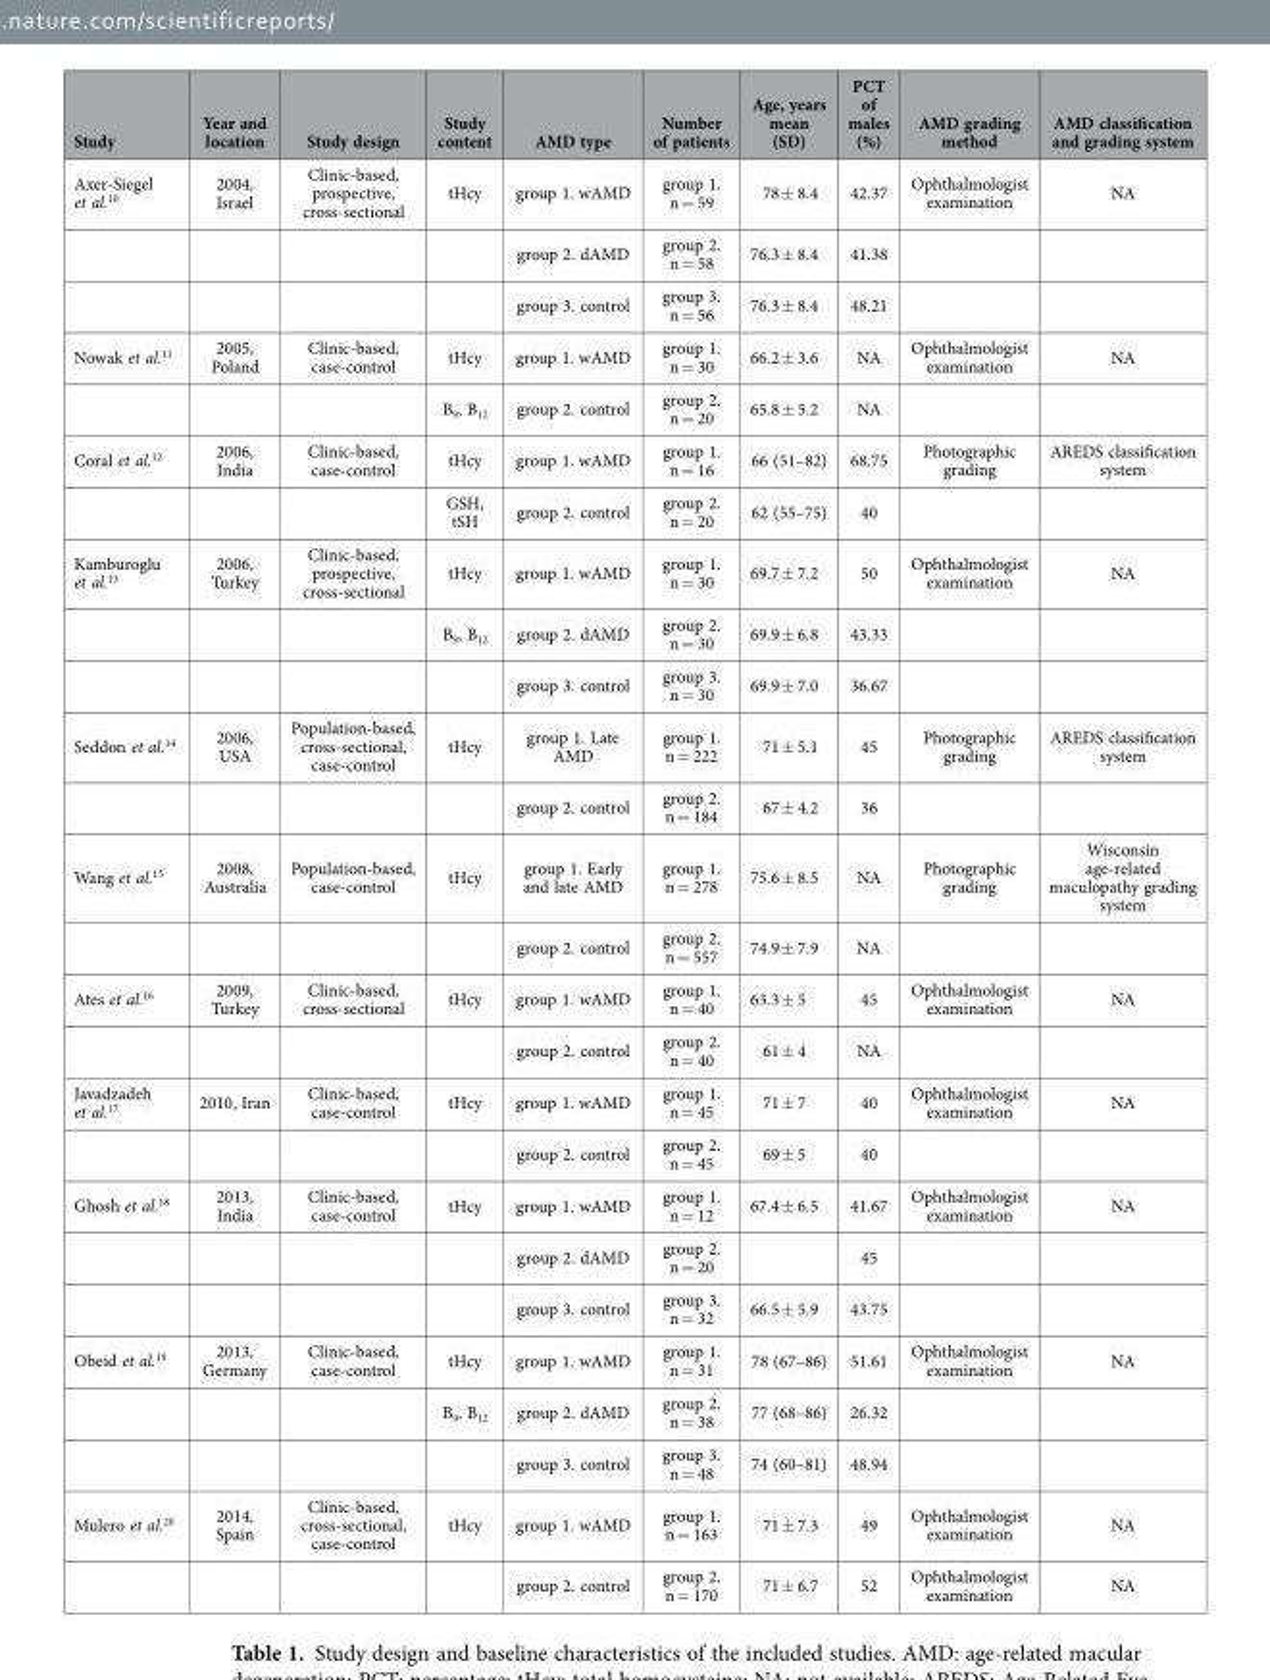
<table><thead><tr><td>Study</td><td>Year and location</td><td>Study design</td><td>Study content</td><td>AMD type</td><td>Number of patients</td><td>Age, years mean (SD)</td><td>PCT of males (%)</td><td>AMD grading method</td><td>AMD classification and grading system</td></tr></thead><tbody><tr><td rowspan="3">Axer-Siegel et al.<sup>10</sup></td><td>2004, Israel</td><td>Clinic-based, prospective, cross-sectional</td><td>tHcy</td><td>group 1. wAMD</td><td>group 1. n = 59</td><td>78 ± 8.4</td><td>42.37</td><td>Ophthalmologist examination</td><td>NA</td></tr><tr><td></td><td></td><td></td><td>group 2. dAMD</td><td>group 2. n = 58</td><td>76.3 ± 8.4</td><td>41.38</td><td></td><td></td></tr><tr><td></td><td></td><td></td><td>group 3. control</td><td>group 3. n = 56</td><td>76.3 ± 8.4</td><td>48.21</td><td></td><td></td></tr><tr><td rowspan="2">Nowak et al.<sup>11</sup></td><td>2005, Poland</td><td>Clinic-based, case-control</td><td>tHcy</td><td>group 1. wAMD</td><td>group 1. n = 30</td><td>66.2 ± 3.6</td><td>NA</td><td>Ophthalmologist examination</td><td>NA</td></tr><tr><td></td><td></td><td>B<sub>9</sub>, B<sub>12</sub></td><td>group 2. control</td><td>group 2. n = 20</td><td>65.8 ± 5.2</td><td>NA</td><td></td><td></td></tr><tr><td rowspan="2">Coral et al.<sup>12</sup></td><td>2006, India</td><td>Clinic-based, case-control</td><td>tHcy</td><td>group 1. wAMD</td><td>group 1. n = 16</td><td>66 (51–82)</td><td>68.75</td><td>Photographic grading</td><td>AREDS classification system</td></tr><tr><td></td><td></td><td>GSH, tSH</td><td>group 2. control</td><td>group 2. n = 20</td><td>62 (55–75)</td><td>40</td><td></td><td></td></tr><tr><td rowspan="3">Kamburoglu et al.<sup>13</sup></td><td>2006, Turkey</td><td>Clinic-based, prospective, cross-sectional</td><td>tHcy</td><td>group 1. wAMD</td><td>group 1. n = 30</td><td>69.7 ± 7.2</td><td>50</td><td>Ophthalmologist examination</td><td>NA</td></tr><tr><td></td><td></td><td>B<sub>9</sub>, B<sub>12</sub></td><td>group 2. dAMD</td><td>group 2. n = 30</td><td>69.9 ± 6.8</td><td>43.33</td><td></td><td></td></tr><tr><td></td><td></td><td></td><td>group 3. control</td><td>group 3. n = 30</td><td>69.9 ± 7.0</td><td>36.67</td><td></td><td></td></tr><tr><td rowspan="2">Seddon et al.<sup>14</sup></td><td>2006, USA</td><td>Population-based, cross-sectional, case-control</td><td>tHcy</td><td>group 1. Late AMD</td><td>group 1. n = 222</td><td>71 ± 5.1</td><td>45</td><td>Photographic grading</td><td>AREDS classification system</td></tr><tr><td></td><td></td><td></td><td>group 2. control</td><td>group 2. n = 184</td><td>67 ± 4.2</td><td>36</td><td></td><td></td></tr><tr><td rowspan="2">Wang et al.<sup>15</sup></td><td>2008, Australia</td><td>Population-based, case-control</td><td>tHcy</td><td>group 1. Early and late AMD</td><td>group 1. n = 278</td><td>75.6 ± 8.5</td><td>NA</td><td>Photographic grading</td><td>Wisconsin age-related maculopathy grading system</td></tr><tr><td></td><td></td><td></td><td>group 2. control</td><td>group 2. n = 557</td><td>74.9 ± 7.9</td><td>NA</td><td></td><td></td></tr><tr><td rowspan="2">Ates et al.<sup>16</sup></td><td>2009, Turkey</td><td>Clinic-based, cross-sectional</td><td>tHcy</td><td>group 1. wAMD</td><td>group 1. n = 40</td><td>63.3 ± 5</td><td>45</td><td>Ophthalmologist examination</td><td>NA</td></tr><tr><td></td><td></td><td></td><td>group 2. control</td><td>group 2. n = 40</td><td>61 ± 4</td><td>NA</td><td></td><td></td></tr><tr><td rowspan="2">Javadzadeh et al.<sup>17</sup></td><td>2010, Iran</td><td>Clinic-based, case-control</td><td>tHcy</td><td>group 1. wAMD</td><td>group 1. n = 45</td><td>71 ± 7</td><td>40</td><td>Ophthalmologist examination</td><td>NA</td></tr><tr><td></td><td></td><td></td><td>group 2. control</td><td>group 2. n = 45</td><td>69 ± 5</td><td>40</td><td></td><td></td></tr><tr><td rowspan="3">Ghosh et al.<sup>18</sup></td><td>2013, India</td><td>Clinic-based, case-control</td><td>tHcy</td><td>group 1. wAMD</td><td>group 1. n = 12</td><td>67.4 ± 6.5</td><td>41.67</td><td>Ophthalmologist examination</td><td>NA</td></tr><tr><td></td><td></td><td></td><td>group 2. dAMD</td><td>group 2. n = 20</td><td></td><td>45</td><td></td><td></td></tr><tr><td></td><td></td><td></td><td>group 3. control</td><td>group 3. n = 32</td><td>66.5 ± 5.9</td><td>43.75</td><td></td><td></td></tr><tr><td rowspan="3">Obeid et al.<sup>19</sup></td><td>2013, Germany</td><td>Clinic-based, case-control</td><td>tHcy</td><td>group 1. wAMD</td><td>group 1. n = 31</td><td>78 (67–86)</td><td>51.61</td><td>Ophthalmologist examination</td><td>NA</td></tr><tr><td></td><td></td><td>B<sub>9</sub>, B<sub>12</sub></td><td>group 2. dAMD</td><td>group 2. n = 38</td><td>77 (68–86)</td><td>26.32</td><td></td><td></td></tr><tr><td></td><td></td><td></td><td>group 3. control</td><td>group 3. n = 48</td><td>74 (60–81)</td><td>48.94</td><td></td><td></td></tr><tr><td rowspan="2">Mulero et al.<sup>20</sup></td><td>2014, Spain</td><td>Clinic-based, cross-sectional, case-control</td><td>tHcy</td><td>group 1. wAMD</td><td>group 1. n = 163</td><td>71 ± 7.3</td><td>49</td><td>Ophthalmologist examination</td><td>NA</td></tr><tr><td></td><td></td><td></td><td>group 2. control</td><td>group 2. n = 170</td><td>71 ± 6.7</td><td>52</td><td>Ophthalmologist examination</td><td>NA</td></tr></tbody></table>